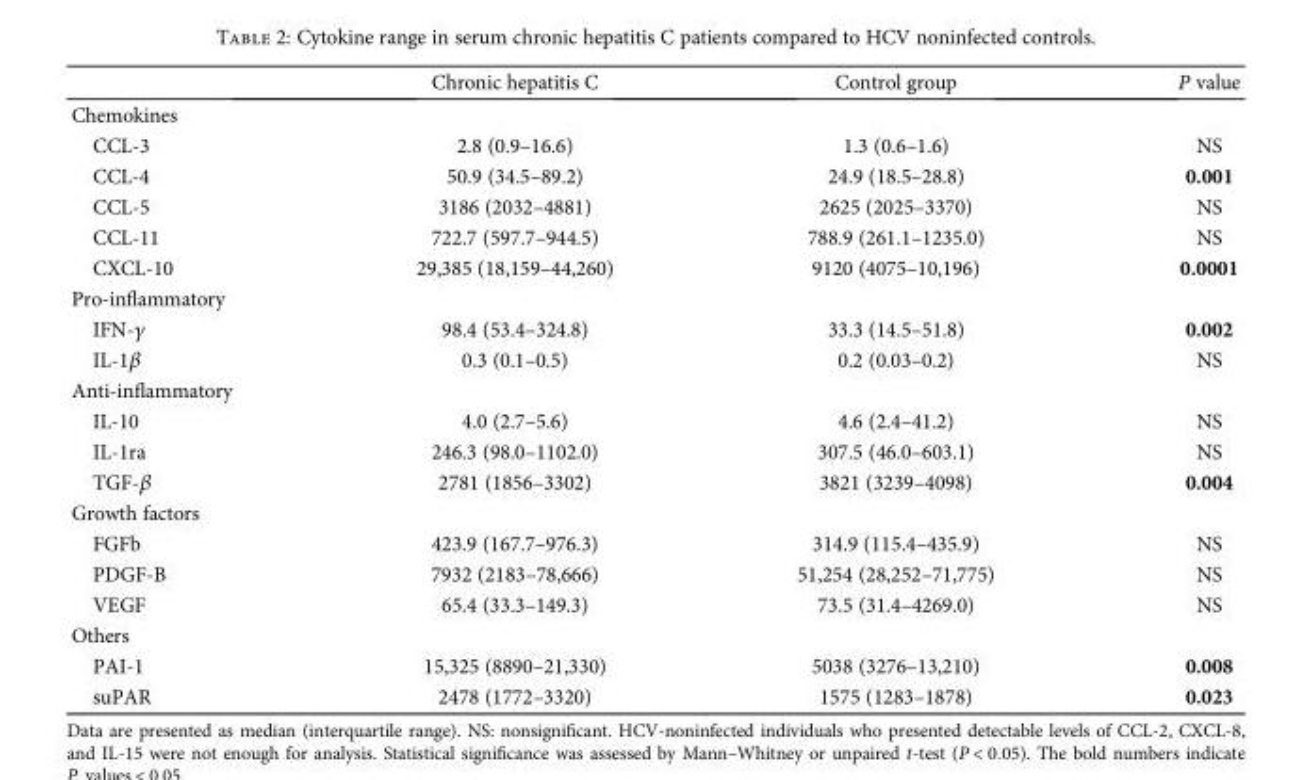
<table><thead><tr><td></td><td>Chronic hepatitis C</td><td>Control group</td><td>P value</td></tr></thead><tbody><tr><td colspan="4">Chemokines</td></tr><tr><td>CCL-3</td><td>2.8 (0.9–16.6)</td><td>1.3 (0.6–1.6)</td><td>NS</td></tr><tr><td>CCL-4</td><td>50.9 (34.5–89.2)</td><td>24.9 (18.5–28.8)</td><td>0.001</td></tr><tr><td>CCL-5</td><td>3186 (2032–4881)</td><td>2625 (2025–3370)</td><td>NS</td></tr><tr><td>CCL-11</td><td>722.7 (597.7–944.5)</td><td>788.9 (261.1–1235.0)</td><td>NS</td></tr><tr><td>CXCL-10</td><td>29,385 (18,159–44,260)</td><td>9120 (4075–10,196)</td><td>0.0001</td></tr><tr><td colspan="4">Pro-inflammatory</td></tr><tr><td>IFN-γ</td><td>98.4 (53.4–324.8)</td><td>33.3 (14.5–51.8)</td><td>0.002</td></tr><tr><td>IL-1β</td><td>0.3 (0.1–0.5)</td><td>0.2 (0.03–0.2)</td><td>NS</td></tr><tr><td colspan="4">Anti-inflammatory</td></tr><tr><td>IL-10</td><td>4.0 (2.7–5.6)</td><td>4.6 (2.4–41.2)</td><td>NS</td></tr><tr><td>IL-1ra</td><td>246.3 (98.0–1102.0)</td><td>307.5 (46.0–603.1)</td><td>NS</td></tr><tr><td>TGF-β</td><td>2781 (1856–3302)</td><td>3821 (3239–4098)</td><td>0.004</td></tr><tr><td colspan="4">Growth factors</td></tr><tr><td>FGFb</td><td>423.9 (167.7–976.3)</td><td>314.9 (115.4–435.9)</td><td>NS</td></tr><tr><td>PDGF-B</td><td>7932 (2183–78,666)</td><td>51,254 (28,252–71,775)</td><td>NS</td></tr><tr><td>VEGF</td><td>65.4 (33.3–149.3)</td><td>73.5 (31.4–4269.0)</td><td>NS</td></tr><tr><td colspan="4">Others</td></tr><tr><td>PAI-1</td><td>15,325 (8890–21,330)</td><td>5038 (3276–13,210)</td><td>0.008</td></tr><tr><td>suPAR</td><td>2478 (1772–3320)</td><td>1575 (1283–1878)</td><td>0.023</td></tr></tbody></table>